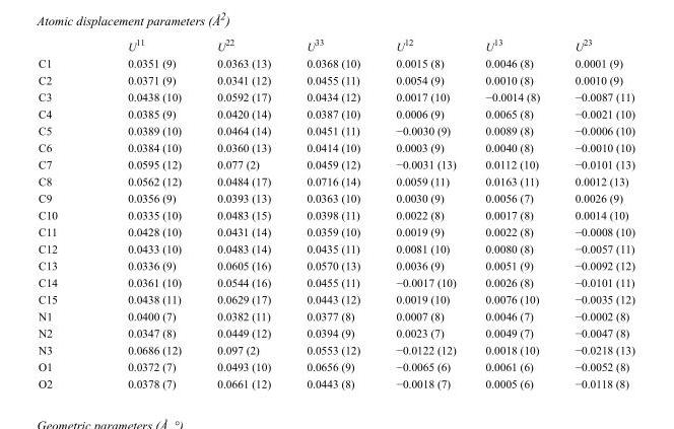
<table><thead><tr><td></td><td>U<sup>11</sup></td><td>U<sup>22</sup></td><td>U<sup>33</sup></td><td>U<sup>12</sup></td><td>U<sup>13</sup></td><td>U<sup>23</sup></td></tr></thead><tbody><tr><td>C1</td><td>0.0351 (9)</td><td>0.0363 (13)</td><td>0.0368 (10)</td><td>0.0015 (8)</td><td>0.0046 (8)</td><td>0.0001 (9)</td></tr><tr><td>C2</td><td>0.0371 (9)</td><td>0.0341 (12)</td><td>0.0455 (11)</td><td>0.0054 (9)</td><td>0.0010 (8)</td><td>0.0010 (9)</td></tr><tr><td>C3</td><td>0.0438 (10)</td><td>0.0592 (17)</td><td>0.0434 (12)</td><td>0.0017 (10)</td><td>−0.0014 (8)</td><td>−0.0087 (11)</td></tr><tr><td>C4</td><td>0.0385 (9)</td><td>0.0420 (14)</td><td>0.0387 (10)</td><td>0.0006 (9)</td><td>0.0065 (8)</td><td>−0.0021 (10)</td></tr><tr><td>C5</td><td>0.0389 (10)</td><td>0.0464 (14)</td><td>0.0451 (11)</td><td>−0.0030 (9)</td><td>0.0089 (8)</td><td>−0.0006 (10)</td></tr><tr><td>C6</td><td>0.0384 (10)</td><td>0.0360 (13)</td><td>0.0414 (10)</td><td>0.0003 (9)</td><td>0.0040 (8)</td><td>−0.0010 (10)</td></tr><tr><td>C7</td><td>0.0595 (12)</td><td>0.077 (2)</td><td>0.0459 (12)</td><td>−0.0031 (13)</td><td>0.0112 (10)</td><td>−0.0101 (13)</td></tr><tr><td>C8</td><td>0.0562 (12)</td><td>0.0484 (17)</td><td>0.0716 (14)</td><td>0.0059 (11)</td><td>0.0163 (11)</td><td>0.0012 (13)</td></tr><tr><td>C9</td><td>0.0356 (9)</td><td>0.0393 (13)</td><td>0.0363 (10)</td><td>0.0030 (9)</td><td>0.0056 (7)</td><td>0.0026 (9)</td></tr><tr><td>C10</td><td>0.0335 (10)</td><td>0.0483 (15)</td><td>0.0398 (11)</td><td>0.0022 (8)</td><td>0.0017 (8)</td><td>0.0014 (10)</td></tr><tr><td>C11</td><td>0.0428 (10)</td><td>0.0431 (14)</td><td>0.0359 (10)</td><td>0.0019 (9)</td><td>0.0022 (8)</td><td>−0.0008 (10)</td></tr><tr><td>C12</td><td>0.0433 (10)</td><td>0.0483 (14)</td><td>0.0435 (11)</td><td>0.0081 (10)</td><td>0.0080 (8)</td><td>−0.0057 (11)</td></tr><tr><td>C13</td><td>0.0336 (9)</td><td>0.0605 (16)</td><td>0.0570 (13)</td><td>0.0036 (9)</td><td>0.0051 (9)</td><td>−0.0092 (12)</td></tr><tr><td>C14</td><td>0.0361 (10)</td><td>0.0544 (16)</td><td>0.0455 (11)</td><td>−0.0017 (10)</td><td>0.0026 (8)</td><td>−0.0101 (11)</td></tr><tr><td>C15</td><td>0.0438 (11)</td><td>0.0629 (17)</td><td>0.0443 (12)</td><td>0.0019 (10)</td><td>0.0076 (10)</td><td>−0.0035 (12)</td></tr><tr><td>N1</td><td>0.0400 (7)</td><td>0.0382 (11)</td><td>0.0377 (8)</td><td>0.0007 (8)</td><td>0.0046 (7)</td><td>−0.0002 (8)</td></tr><tr><td>N2</td><td>0.0347 (8)</td><td>0.0449 (12)</td><td>0.0394 (9)</td><td>0.0023 (7)</td><td>0.0049 (7)</td><td>−0.0047 (8)</td></tr><tr><td>N3</td><td>0.0686 (12)</td><td>0.097 (2)</td><td>0.0553 (12)</td><td>−0.0122 (12)</td><td>0.0018 (10)</td><td>−0.0218 (13)</td></tr><tr><td>O1</td><td>0.0372 (7)</td><td>0.0493 (10)</td><td>0.0656 (9)</td><td>−0.0065 (6)</td><td>0.0061 (6)</td><td>−0.0052 (8)</td></tr><tr><td>O2</td><td>0.0378 (7)</td><td>0.0661 (12)</td><td>0.0443 (8)</td><td>−0.0018 (7)</td><td>0.0005 (6)</td><td>−0.0118 (8)</td></tr></tbody></table>